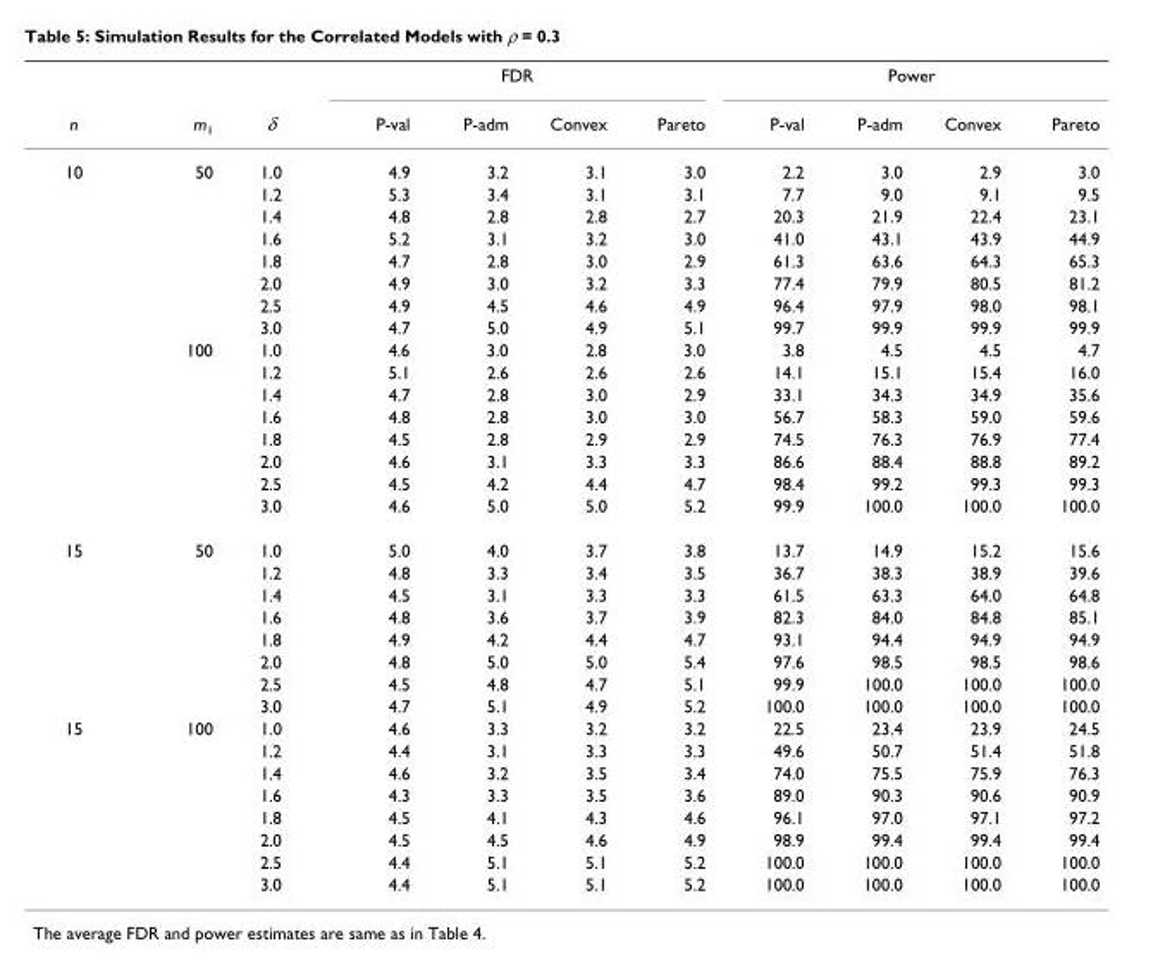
<table><thead><tr><td rowspan="2">n</td><td rowspan="2">m<sub>1</sub></td><td rowspan="2">δ</td><td colspan="4">FDR</td><td colspan="4">Power</td></tr><tr><td>P-val</td><td>P-adm</td><td>Convex</td><td>Pareto</td><td>P-val</td><td>P-adm</td><td>Convex</td><td>Pareto</td></tr></thead><tbody><tr><td rowspan="16">10</td><td>50</td><td>1.0</td><td>4.9</td><td>3.2</td><td>3.1</td><td>3.0</td><td>2.2</td><td>3.0</td><td>2.9</td><td>3.0</td></tr><tr><td></td><td>1.2</td><td>5.3</td><td>3.4</td><td>3.1</td><td>3.1</td><td>7.7</td><td>9.0</td><td>9.1</td><td>9.5</td></tr><tr><td></td><td>1.4</td><td>4.8</td><td>2.8</td><td>2.8</td><td>2.7</td><td>20.3</td><td>21.9</td><td>22.4</td><td>23.1</td></tr><tr><td></td><td>1.6</td><td>5.2</td><td>3.1</td><td>3.2</td><td>3.0</td><td>41.0</td><td>43.1</td><td>43.9</td><td>44.9</td></tr><tr><td></td><td>1.8</td><td>4.7</td><td>2.8</td><td>3.0</td><td>2.9</td><td>61.3</td><td>63.6</td><td>64.3</td><td>65.3</td></tr><tr><td></td><td>2.0</td><td>4.9</td><td>3.0</td><td>3.2</td><td>3.3</td><td>77.4</td><td>79.9</td><td>80.5</td><td>81.2</td></tr><tr><td></td><td>2.5</td><td>4.9</td><td>4.5</td><td>4.6</td><td>4.9</td><td>96.4</td><td>97.9</td><td>98.0</td><td>98.1</td></tr><tr><td></td><td>3.0</td><td>4.7</td><td>5.0</td><td>4.9</td><td>5.1</td><td>99.7</td><td>99.9</td><td>99.9</td><td>99.9</td></tr><tr><td>100</td><td>1.0</td><td>4.6</td><td>3.0</td><td>2.8</td><td>3.0</td><td>3.8</td><td>4.5</td><td>4.5</td><td>4.7</td></tr><tr><td></td><td>1.2</td><td>5.1</td><td>2.6</td><td>2.6</td><td>2.6</td><td>14.1</td><td>15.1</td><td>15.4</td><td>16.0</td></tr><tr><td></td><td>1.4</td><td>4.7</td><td>2.8</td><td>3.0</td><td>2.9</td><td>33.1</td><td>34.3</td><td>34.9</td><td>35.6</td></tr><tr><td></td><td>1.6</td><td>4.8</td><td>2.8</td><td>3.0</td><td>3.0</td><td>56.7</td><td>58.3</td><td>59.0</td><td>59.6</td></tr><tr><td></td><td>1.8</td><td>4.5</td><td>2.8</td><td>2.9</td><td>2.9</td><td>74.5</td><td>76.3</td><td>76.9</td><td>77.4</td></tr><tr><td></td><td>2.0</td><td>4.6</td><td>3.1</td><td>3.3</td><td>3.3</td><td>86.6</td><td>88.4</td><td>88.8</td><td>89.2</td></tr><tr><td></td><td>2.5</td><td>4.5</td><td>4.2</td><td>4.4</td><td>4.7</td><td>98.4</td><td>99.2</td><td>99.3</td><td>99.3</td></tr><tr><td></td><td>3.0</td><td>4.6</td><td>5.0</td><td>5.0</td><td>5.2</td><td>99.9</td><td>100.0</td><td>100.0</td><td>100.0</td></tr><tr><td rowspan="8">15</td><td>50</td><td>1.0</td><td>5.0</td><td>4.0</td><td>3.7</td><td>3.8</td><td>13.7</td><td>14.9</td><td>15.2</td><td>15.6</td></tr><tr><td></td><td>1.2</td><td>4.8</td><td>3.3</td><td>3.4</td><td>3.5</td><td>36.7</td><td>38.3</td><td>38.9</td><td>39.6</td></tr><tr><td></td><td>1.4</td><td>4.5</td><td>3.1</td><td>3.3</td><td>3.3</td><td>61.5</td><td>63.3</td><td>64.0</td><td>64.8</td></tr><tr><td></td><td>1.6</td><td>4.8</td><td>3.6</td><td>3.7</td><td>3.9</td><td>82.3</td><td>84.0</td><td>84.8</td><td>85.1</td></tr><tr><td></td><td>1.8</td><td>4.9</td><td>4.2</td><td>4.4</td><td>4.7</td><td>93.1</td><td>94.4</td><td>94.9</td><td>94.9</td></tr><tr><td></td><td>2.0</td><td>4.8</td><td>5.0</td><td>5.0</td><td>5.4</td><td>97.6</td><td>98.5</td><td>98.5</td><td>98.6</td></tr><tr><td></td><td>2.5</td><td>4.5</td><td>4.8</td><td>4.7</td><td>5.1</td><td>99.9</td><td>100.0</td><td>100.0</td><td>100.0</td></tr><tr><td></td><td>3.0</td><td>4.7</td><td>5.1</td><td>4.9</td><td>5.2</td><td>100.0</td><td>100.0</td><td>100.0</td><td>100.0</td></tr><tr><td rowspan="8">15</td><td>100</td><td>1.0</td><td>4.6</td><td>3.3</td><td>3.2</td><td>3.2</td><td>22.5</td><td>23.4</td><td>23.9</td><td>24.5</td></tr><tr><td></td><td>1.2</td><td>4.4</td><td>3.1</td><td>3.3</td><td>3.3</td><td>49.6</td><td>50.7</td><td>51.4</td><td>51.8</td></tr><tr><td></td><td>1.4</td><td>4.6</td><td>3.2</td><td>3.5</td><td>3.4</td><td>74.0</td><td>75.5</td><td>75.9</td><td>76.3</td></tr><tr><td></td><td>1.6</td><td>4.3</td><td>3.3</td><td>3.5</td><td>3.6</td><td>89.0</td><td>90.3</td><td>90.6</td><td>90.9</td></tr><tr><td></td><td>1.8</td><td>4.5</td><td>4.1</td><td>4.3</td><td>4.6</td><td>96.1</td><td>97.0</td><td>97.1</td><td>97.2</td></tr><tr><td></td><td>2.0</td><td>4.5</td><td>4.5</td><td>4.6</td><td>4.9</td><td>98.9</td><td>99.4</td><td>99.4</td><td>99.4</td></tr><tr><td></td><td>2.5</td><td>4.4</td><td>5.1</td><td>5.1</td><td>5.2</td><td>100.0</td><td>100.0</td><td>100.0</td><td>100.0</td></tr><tr><td></td><td>3.0</td><td>4.4</td><td>5.1</td><td>5.1</td><td>5.2</td><td>100.0</td><td>100.0</td><td>100.0</td><td>100.0</td></tr></tbody></table>